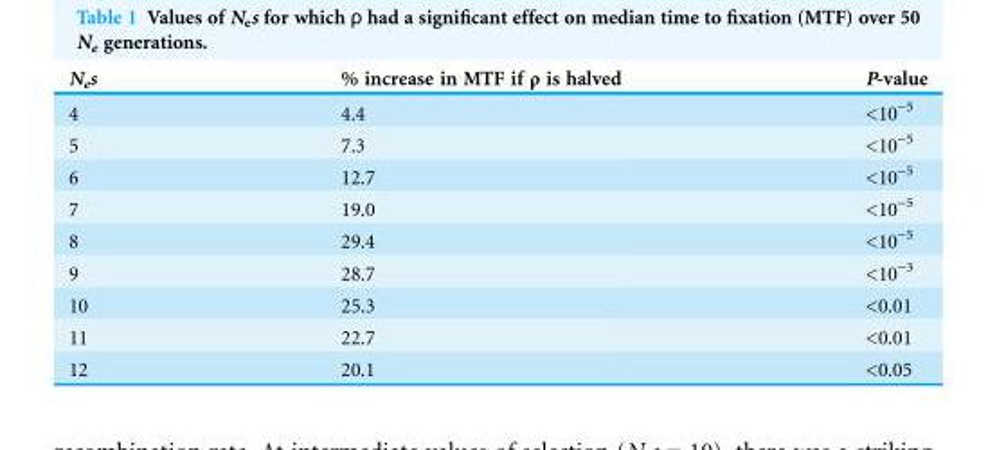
<table><thead><tr><td>N<sub>e</sub>s</td><td>% increase in MTF if ρ is halved</td><td>P-value</td></tr></thead><tbody><tr><td>4</td><td>4.4</td><td>&lt;10<sup>-5</sup></td></tr><tr><td>5</td><td>7.3</td><td>&lt;10<sup>-5</sup></td></tr><tr><td>6</td><td>12.7</td><td>&lt;10<sup>-5</sup></td></tr><tr><td>7</td><td>19.0</td><td>&lt;10<sup>-5</sup></td></tr><tr><td>8</td><td>29.4</td><td>&lt;10<sup>-5</sup></td></tr><tr><td>9</td><td>28.7</td><td>&lt;10<sup>-3</sup></td></tr><tr><td>10</td><td>25.3</td><td>&lt;0.01</td></tr><tr><td>11</td><td>22.7</td><td>&lt;0.01</td></tr><tr><td>12</td><td>20.1</td><td>&lt;0.05</td></tr></tbody></table>